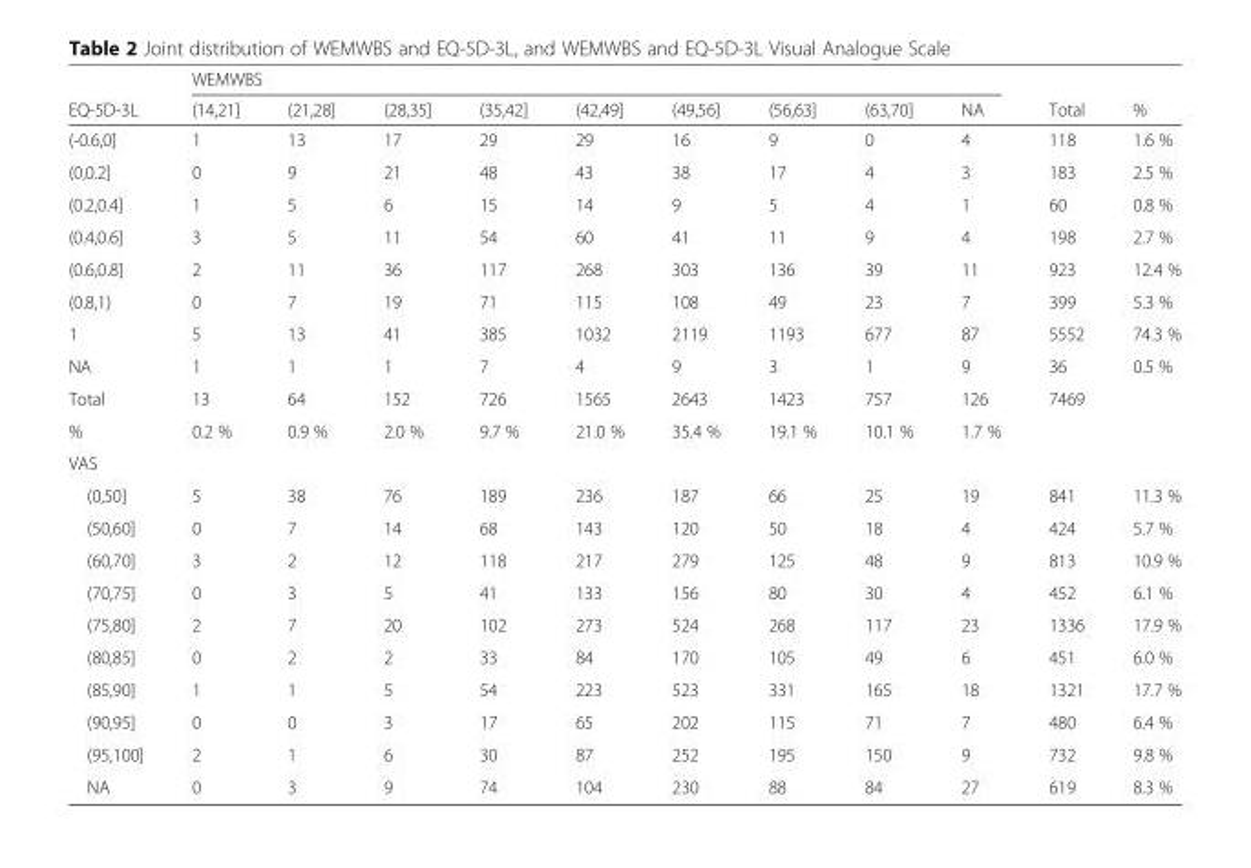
<table><thead><tr><td rowspan="2">EQ-5D-3L</td><td colspan="9">WEMWBS</td><td rowspan="2">Total</td><td rowspan="2">%</td></tr><tr><td>(14,21]</td><td>(21,28]</td><td>(28,35]</td><td>(35,42]</td><td>(42,49]</td><td>(49,56]</td><td>(56,63]</td><td>(63,70]</td><td>NA</td></tr></thead><tbody><tr><td>(-0.6,0]</td><td>1</td><td>13</td><td>17</td><td>29</td><td>29</td><td>16</td><td>9</td><td>0</td><td>4</td><td>118</td><td>1.6 %</td></tr><tr><td>(0,0.2]</td><td>0</td><td>9</td><td>21</td><td>48</td><td>43</td><td>38</td><td>17</td><td>4</td><td>3</td><td>183</td><td>2.5 %</td></tr><tr><td>(0.2,0.4]</td><td>1</td><td>5</td><td>6</td><td>15</td><td>14</td><td>9</td><td>5</td><td>4</td><td>1</td><td>60</td><td>0.8 %</td></tr><tr><td>(0.4,0.6]</td><td>3</td><td>5</td><td>11</td><td>54</td><td>60</td><td>41</td><td>11</td><td>9</td><td>4</td><td>198</td><td>2.7 %</td></tr><tr><td>(0.6,0.8]</td><td>2</td><td>11</td><td>36</td><td>117</td><td>268</td><td>303</td><td>136</td><td>39</td><td>11</td><td>923</td><td>12.4 %</td></tr><tr><td>(0.8,1)</td><td>0</td><td>7</td><td>19</td><td>71</td><td>115</td><td>108</td><td>49</td><td>23</td><td>7</td><td>399</td><td>5.3 %</td></tr><tr><td>1</td><td>5</td><td>13</td><td>41</td><td>385</td><td>1032</td><td>2119</td><td>1193</td><td>677</td><td>87</td><td>5552</td><td>74.3 %</td></tr><tr><td>NA</td><td>1</td><td>1</td><td>1</td><td>7</td><td>4</td><td>9</td><td>3</td><td>1</td><td>9</td><td>36</td><td>0.5 %</td></tr><tr><td>Total</td><td>13</td><td>64</td><td>152</td><td>726</td><td>1565</td><td>2643</td><td>1423</td><td>757</td><td>126</td><td>7469</td><td></td></tr><tr><td>%</td><td>0.2 %</td><td>0.9 %</td><td>2.0 %</td><td>9.7 %</td><td>21.0 %</td><td>35.4 %</td><td>19.1 %</td><td>10.1 %</td><td>1.7 %</td><td></td><td></td></tr><tr><td colspan="12">VAS</td></tr><tr><td>(0,50]</td><td>5</td><td>38</td><td>76</td><td>189</td><td>236</td><td>187</td><td>66</td><td>25</td><td>19</td><td>841</td><td>11.3 %</td></tr><tr><td>(50,60]</td><td>0</td><td>7</td><td>14</td><td>68</td><td>143</td><td>120</td><td>50</td><td>18</td><td>4</td><td>424</td><td>5.7 %</td></tr><tr><td>(60,70]</td><td>3</td><td>2</td><td>12</td><td>118</td><td>217</td><td>279</td><td>125</td><td>48</td><td>9</td><td>813</td><td>10.9 %</td></tr><tr><td>(70,75]</td><td>0</td><td>3</td><td>5</td><td>41</td><td>133</td><td>156</td><td>80</td><td>30</td><td>4</td><td>452</td><td>6.1 %</td></tr><tr><td>(75,80]</td><td>2</td><td>7</td><td>20</td><td>102</td><td>273</td><td>524</td><td>268</td><td>117</td><td>23</td><td>1336</td><td>17.9 %</td></tr><tr><td>(80,85]</td><td>0</td><td>2</td><td>2</td><td>33</td><td>84</td><td>170</td><td>105</td><td>49</td><td>6</td><td>451</td><td>6.0 %</td></tr><tr><td>(85,90]</td><td>1</td><td>1</td><td>5</td><td>54</td><td>223</td><td>523</td><td>331</td><td>165</td><td>18</td><td>1321</td><td>17.7 %</td></tr><tr><td>(90,95]</td><td>0</td><td>0</td><td>3</td><td>17</td><td>65</td><td>202</td><td>115</td><td>71</td><td>7</td><td>480</td><td>6.4 %</td></tr><tr><td>(95,100]</td><td>2</td><td>1</td><td>6</td><td>30</td><td>87</td><td>252</td><td>195</td><td>150</td><td>9</td><td>732</td><td>9.8 %</td></tr><tr><td>NA</td><td>0</td><td>3</td><td>9</td><td>74</td><td>104</td><td>230</td><td>88</td><td>84</td><td>27</td><td>619</td><td>8.3 %</td></tr></tbody></table>